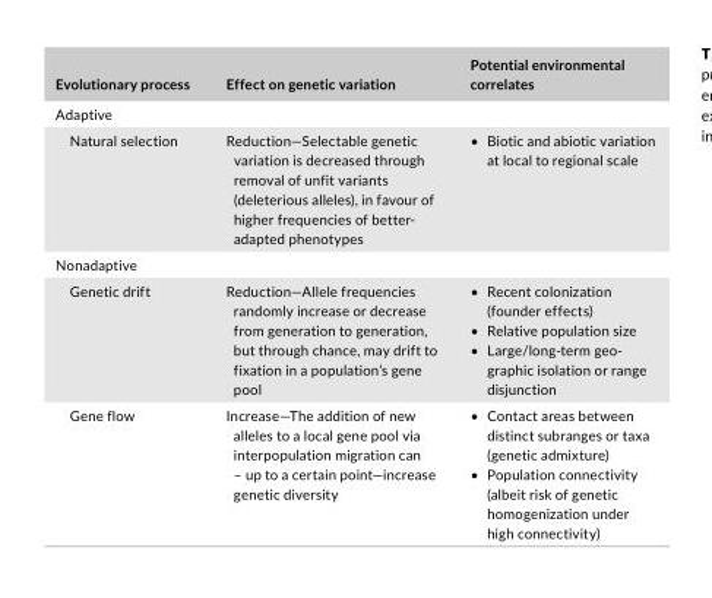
<table><thead><tr><td>Evolutionary process</td><td>Effect on genetic variation</td><td>Potential environmental correlates</td></tr></thead><tbody><tr><td colspan="3">Adaptive</td></tr><tr><td>Natural selection</td><td>Reduction—Selectable genetic variation is decreased through removal of unfit variants (deleterious alleles), in favour of higher frequencies of better- adapted phenotypes</td><td>• Biotic and abiotic variation at local to regional scale</td></tr><tr><td colspan="3">Nonadaptive</td></tr><tr><td>Genetic drift</td><td>Reduction—Allele frequencies randomly increase or decrease from generation to generation, but through chance, may drift to fixation in a population’s gene pool</td><td>• Recent colonization (founder effects) • Relative population size • Large/long-term geo- graphic isolation or range disjunction</td></tr><tr><td>Gene flow</td><td>Increase—The addition of new alleles to a local gene pool via interpopulation migration can – up to a certain point—increase genetic diversity</td><td>• Contact areas between distinct subranges or taxa (genetic admixture) • Population connectivity (albeit risk of genetic homogenization under high connectivity)</td></tr></tbody></table>